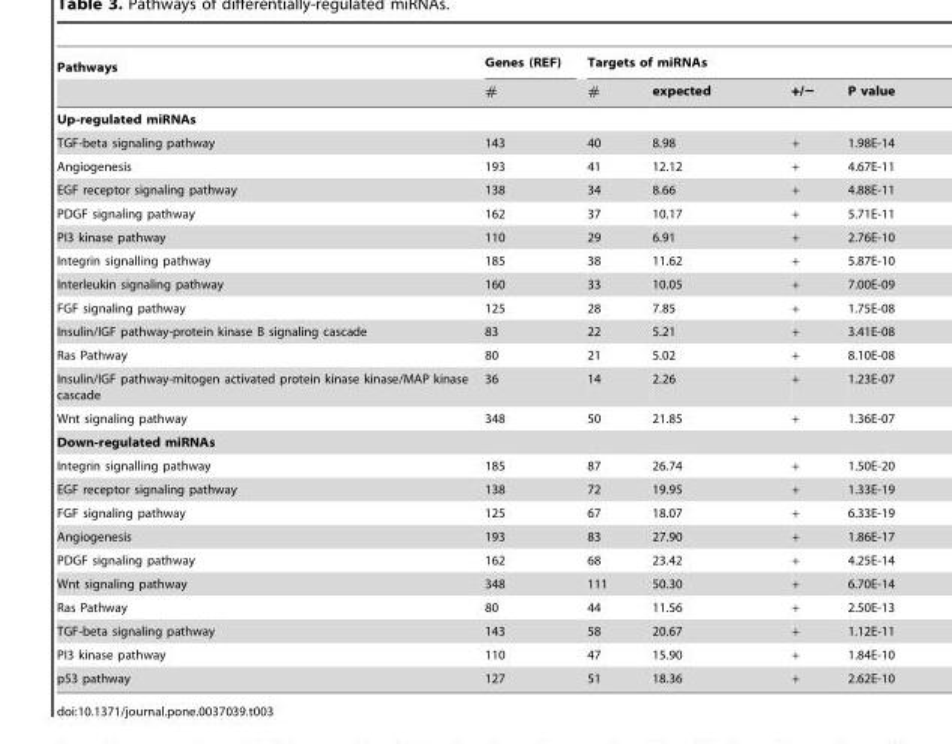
<table><thead><tr><td rowspan="2">Pathways</td><td rowspan="2">Genes (REF) #</td><td colspan="4">Targets of miRNAs</td></tr><tr><td>#</td><td>expected</td><td>+/−</td><td>P value</td></tr></thead><tbody><tr><td colspan="6">Up-regulated miRNAs</td></tr><tr><td>TGF-beta signaling pathway</td><td>143</td><td>40</td><td>8.98</td><td>+</td><td>1.98E-14</td></tr><tr><td>Angiogenesis</td><td>193</td><td>41</td><td>12.12</td><td>+</td><td>4.67E-11</td></tr><tr><td>EGF receptor signaling pathway</td><td>138</td><td>34</td><td>8.66</td><td>+</td><td>4.88E-11</td></tr><tr><td>PDGF signaling pathway</td><td>162</td><td>37</td><td>10.17</td><td>+</td><td>5.71E-11</td></tr><tr><td>PI3 kinase pathway</td><td>110</td><td>29</td><td>6.91</td><td>+</td><td>2.76E-10</td></tr><tr><td>Integrin signalling pathway</td><td>185</td><td>38</td><td>11.62</td><td>+</td><td>5.87E-10</td></tr><tr><td>Interleukin signaling pathway</td><td>160</td><td>33</td><td>10.05</td><td>+</td><td>7.00E-09</td></tr><tr><td>FGF signaling pathway</td><td>125</td><td>28</td><td>7.85</td><td>+</td><td>1.75E-08</td></tr><tr><td>Insulin/IGF pathway-protein kinase B signaling cascade</td><td>83</td><td>22</td><td>5.21</td><td>+</td><td>3.41E-08</td></tr><tr><td>Ras Pathway</td><td>80</td><td>21</td><td>5.02</td><td>+</td><td>8.10E-08</td></tr><tr><td>Insulin/IGF pathway-mitogen activated protein kinase kinase/MAP kinase cascade</td><td>36</td><td>14</td><td>2.26</td><td>+</td><td>1.23E-07</td></tr><tr><td>Wnt signaling pathway</td><td>348</td><td>50</td><td>21.85</td><td>+</td><td>1.36E-07</td></tr><tr><td colspan="6">Down-regulated miRNAs</td></tr><tr><td>Integrin signalling pathway</td><td>185</td><td>87</td><td>26.74</td><td>+</td><td>1.50E-20</td></tr><tr><td>EGF receptor signaling pathway</td><td>138</td><td>72</td><td>19.95</td><td>+</td><td>1.33E-19</td></tr><tr><td>FGF signaling pathway</td><td>125</td><td>67</td><td>18.07</td><td>+</td><td>6.33E-19</td></tr><tr><td>Angiogenesis</td><td>193</td><td>83</td><td>27.90</td><td>+</td><td>1.86E-17</td></tr><tr><td>PDGF signaling pathway</td><td>162</td><td>68</td><td>23.42</td><td>+</td><td>4.25E-14</td></tr><tr><td>Wnt signaling pathway</td><td>348</td><td>111</td><td>50.30</td><td>+</td><td>6.70E-14</td></tr><tr><td>Ras Pathway</td><td>80</td><td>44</td><td>11.56</td><td>+</td><td>2.50E-13</td></tr><tr><td>TGF-beta signaling pathway</td><td>143</td><td>58</td><td>20.67</td><td>+</td><td>1.12E-11</td></tr><tr><td>PI3 kinase pathway</td><td>110</td><td>47</td><td>15.90</td><td>+</td><td>1.84E-10</td></tr><tr><td>p53 pathway</td><td>127</td><td>51</td><td>18.36</td><td>+</td><td>2.62E-10</td></tr></tbody></table>